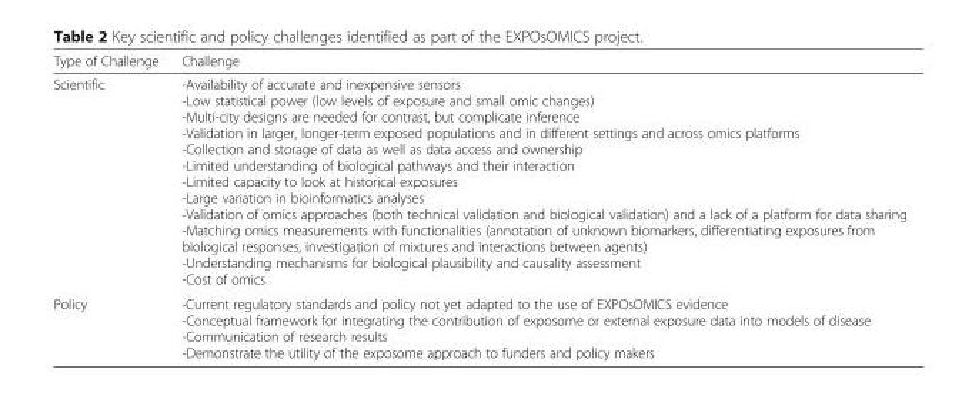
<table><thead><tr><td>Type of Challenge</td><td>Challenge</td></tr></thead><tbody><tr><td>Scientific</td><td>-Availability of accurate and inexpensive sensors -Low statistical power (low levels of exposure and small omic changes) -Multi-city designs are needed for contrast, but complicate inference -Validation in larger, longer-term exposed populations and in different settings and across omics platforms -Collection and storage of data as well as data access and ownership -Limited understanding of biological pathways and their interaction -Limited capacity to look at historical exposures -Large variation in bioinformatics analyses -Validation of omics approaches (both technical validation and biological validation) and a lack of a platform for data sharing -Matching omics measurements with functionalities (annotation of unknown biomarkers, differentiating exposures from biological responses, investigation of mixtures and interactions between agents) -Understanding mechanisms for biological plausibility and causality assessment -Cost of omics</td></tr><tr><td>Policy</td><td>-Current regulatory standards and policy not yet adapted to the use of EXPOsOMICS evidence -Conceptual framework for integrating the contribution of exposome or external exposure data into models of disease -Communication of research results -Demonstrate the utility of the exposome approach to funders and policy makers</td></tr></tbody></table>